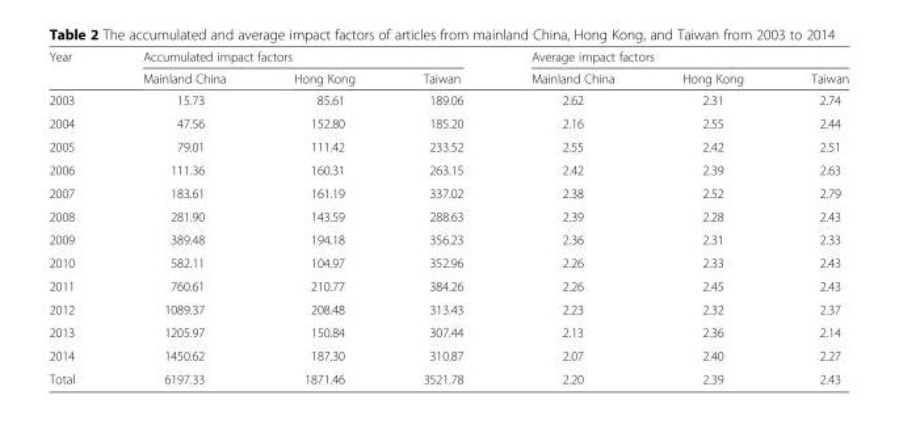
<table><thead><tr><td rowspan="2">Year</td><td colspan="3">Accumulated impact factors</td><td colspan="3">Average impact factors</td></tr><tr><td>Mainland China</td><td>Hong Kong</td><td>Taiwan</td><td>Mainland China</td><td>Hong Kong</td><td>Taiwan</td></tr></thead><tbody><tr><td>2003</td><td>15.73</td><td>85.61</td><td>189.06</td><td>2.62</td><td>2.31</td><td>2.74</td></tr><tr><td>2004</td><td>47.56</td><td>152.80</td><td>185.20</td><td>2.16</td><td>2.55</td><td>2.44</td></tr><tr><td>2005</td><td>79.01</td><td>111.42</td><td>233.52</td><td>2.55</td><td>2.42</td><td>2.51</td></tr><tr><td>2006</td><td>111.36</td><td>160.31</td><td>263.15</td><td>2.42</td><td>2.39</td><td>2.63</td></tr><tr><td>2007</td><td>183.61</td><td>161.19</td><td>337.02</td><td>2.38</td><td>2.52</td><td>2.79</td></tr><tr><td>2008</td><td>281.90</td><td>143.59</td><td>288.63</td><td>2.39</td><td>2.28</td><td>2.43</td></tr><tr><td>2009</td><td>389.48</td><td>194.18</td><td>356.23</td><td>2.36</td><td>2.31</td><td>2.33</td></tr><tr><td>2010</td><td>582.11</td><td>104.97</td><td>352.96</td><td>2.26</td><td>2.33</td><td>2.43</td></tr><tr><td>2011</td><td>760.61</td><td>210.77</td><td>384.26</td><td>2.26</td><td>2.45</td><td>2.43</td></tr><tr><td>2012</td><td>1089.37</td><td>208.48</td><td>313.43</td><td>2.23</td><td>2.32</td><td>2.37</td></tr><tr><td>2013</td><td>1205.97</td><td>150.84</td><td>307.44</td><td>2.13</td><td>2.36</td><td>2.14</td></tr><tr><td>2014</td><td>1450.62</td><td>187.30</td><td>310.87</td><td>2.07</td><td>2.40</td><td>2.27</td></tr><tr><td>Total</td><td>6197.33</td><td>1871.46</td><td>3521.78</td><td>2.20</td><td>2.39</td><td>2.43</td></tr></tbody></table>